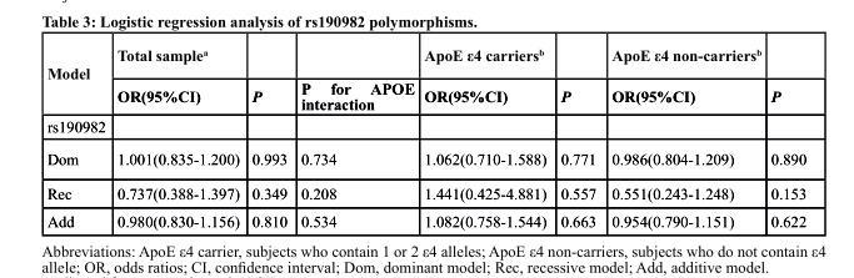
<table><thead><tr><td rowspan="2">Model</td><td rowspan="2">total sample<sup>a</sup> or(95%cI)</td><td rowspan="2">P</td><td rowspan="2">P for APoe interaction</td><td rowspan="2">ApoE ε4 carriers<sup>b</sup> or(95%cI)</td><td rowspan="2">P</td><td rowspan="2">ApoE ε4 non-carriers<sup>b</sup> or(95%cI)</td><td rowspan="2">P</td></tr><tr></tr></thead><tbody><tr><td colspan="8">rs190982</td></tr><tr><td>Dom</td><td>1.001(0.835-1.200)</td><td>0.993</td><td>0.734</td><td>1.062(0.710-1.588)</td><td>0.771</td><td>0.986(0.804-1.209)</td><td>0.890</td></tr><tr><td>Rec</td><td>0.737(0.388-1.397)</td><td>0.349</td><td>0.208</td><td>1.441(0.425-4.881)</td><td>0.557</td><td>0.551(0.243-1.248)</td><td>0.153</td></tr><tr><td>Add</td><td>0.980(0.830-1.156)</td><td>0.810</td><td>0.534</td><td>1.082(0.758-1.544)</td><td>0.663</td><td>0.954(0.790-1.151)</td><td>0.622</td></tr></tbody></table>